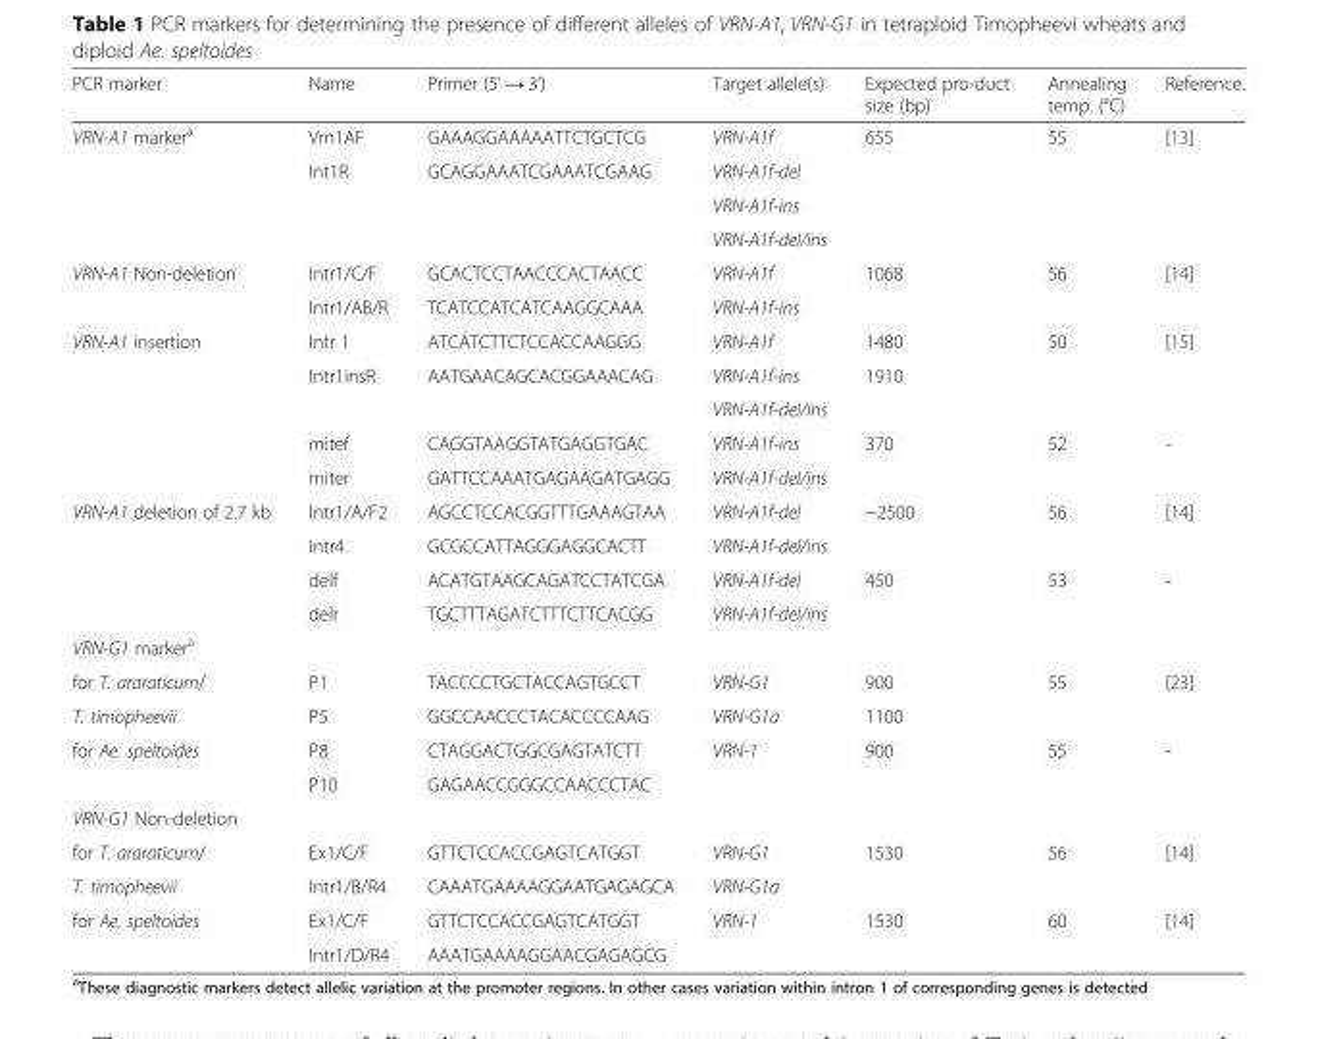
<table><thead><tr><td>PCR marker</td><td>Name</td><td>Primer (5’ → 3’)</td><td>Target allele(s)</td><td>Expected pro-duct size (bp)</td><td>Annealing temp. (°C)</td><td>Reference.</td></tr></thead><tbody><tr><td rowspan="4">VRN-A1 marker<sup>a</sup></td><td>Vrn1AF</td><td>GAAAGGAAAAATTCTGCTCG</td><td>VRN-A1f</td><td rowspan="4">655</td><td rowspan="4">55</td><td rowspan="4">[13]</td></tr><tr><td rowspan="3">Int1R</td><td rowspan="3">GCAGGAAATCGAAATCGAAG</td><td>VRN-A1f-del</td></tr><tr><td>VRN-A1f-ins</td></tr><tr><td>VRN-A1f-del/ins</td></tr><tr><td rowspan="2">VRN-A1 Non-deletion</td><td>Intr1/C/F</td><td>GCACTCCTAACCCACTAACC</td><td>VRN-A1f</td><td rowspan="2">1068</td><td rowspan="2">56</td><td rowspan="2">[14]</td></tr><tr><td>Intr1/AB/R</td><td>TCATCCATCATCAAGGCAAA</td><td>VRN-A1f-ins</td></tr><tr><td rowspan="5">VRN-A1 insertion</td><td>Intr 1</td><td>ATCATCTTCTCCACCAAGGG</td><td>VRN-A1f</td><td>1480</td><td>50</td><td>[15]</td></tr><tr><td rowspan="2">Intr1insR</td><td rowspan="2">AATGAACAGCACGGAAACAG</td><td>VRN-A1f-ins</td><td>1910</td><td></td><td></td></tr><tr><td>VRN-A1f-del/ins</td><td></td><td></td><td></td></tr><tr><td>mitef</td><td>CAGGTAAGGTATGAGGTGAC</td><td>VRN-A1f-ins</td><td>370</td><td>52</td><td>-</td></tr><tr><td>miter</td><td>GATTCCAAATGAGAAGATGAGG</td><td>VRN-A1f-del/ins</td><td></td><td></td><td></td></tr><tr><td rowspan="4">VRN-A1 deletion of 2.7 kb</td><td>Intr1/A/F2</td><td>AGCCTCCACGGTTTGAAAGTAA</td><td>VRN-A1f-del</td><td>~2500</td><td>56</td><td>[14]</td></tr><tr><td>Intr4</td><td>GCGCCATTAGGGAGGCACTT</td><td>VRN-A1f-del/ins</td><td></td><td></td><td></td></tr><tr><td>delf</td><td>ACATGTAAGCAGATCCTATCGA</td><td>VRN-A1f-del</td><td>450</td><td>53</td><td>-</td></tr><tr><td>delr</td><td>TGCTTTAGATCTTTCTTCACGG</td><td>VRN-A1f-del/ins</td><td></td><td></td><td></td></tr><tr><td colspan="7">VRN-G1 marker<sup>a</sup></td></tr><tr><td>for T. araraticum/</td><td>P1</td><td>TACCCCTGCTACCAGTGCCT</td><td>VRN-G1</td><td>900</td><td>55</td><td>[23]</td></tr><tr><td>T. timopheevii</td><td>P5</td><td>GGCCAACCCTACACCCCAAG</td><td>VRN-G1a</td><td>1100</td><td></td><td></td></tr><tr><td rowspan="2">for Ae. speltoides</td><td>P8</td><td>CTAGGACTGGCGAGTATCTT</td><td>VRN-1</td><td>900</td><td>55</td><td>-</td></tr><tr><td>P10</td><td>GAGAACCGGGCCAACCCTAC</td><td></td><td></td><td></td><td></td></tr><tr><td colspan="7">VRN-G1 Non-deletion</td></tr><tr><td>for T. araraticum/</td><td>Ex1/C/F</td><td>GTTCTCCACCGAGTCATGGT</td><td>VRN-G1</td><td>1530</td><td>56</td><td>[14]</td></tr><tr><td>T. timopheevii</td><td>Intr1/B/R4</td><td>CAAATGAAAAGGAATGAGAGCA</td><td>VRN-G1a</td><td></td><td></td><td></td></tr><tr><td rowspan="2">for Ae. speltoides</td><td>Ex1/C/F</td><td>GTTCTCCACCGAGTCATGGT</td><td>VRN-1</td><td>1530</td><td>60</td><td>[14]</td></tr><tr><td>Intr1/D/R4</td><td>AAATGAAAAGGAACGAGAGCG</td><td></td><td></td><td></td><td></td></tr></tbody></table>